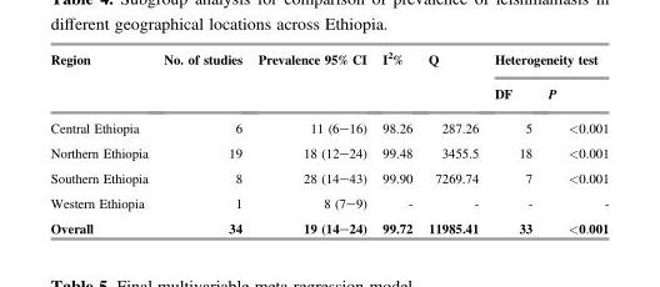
<table><thead><tr><td rowspan="2">Region</td><td rowspan="2">No. of studies</td><td rowspan="2">Prevalence 95% CI</td><td rowspan="2">I<sup>2</sup>%</td><td rowspan="2">Q</td><td colspan="2">Heterogeneity test</td></tr><tr><td>DF</td><td>P</td></tr></thead><tbody><tr><td>Central Ethiopia</td><td>6</td><td>11 (6–16)</td><td>98.26</td><td>287.26</td><td>5</td><td>&lt;0.001</td></tr><tr><td>Northern Ethiopia</td><td>19</td><td>18 (12–24)</td><td>99.48</td><td>3455.5</td><td>18</td><td>&lt;0.001</td></tr><tr><td>Southern Ethiopia</td><td>8</td><td>28 (14–43)</td><td>99.90</td><td>7269.74</td><td>7</td><td>&lt;0.001</td></tr><tr><td>Western Ethiopia</td><td>1</td><td>8 (7–9)</td><td>-</td><td>-</td><td>-</td><td>-</td></tr><tr><td>Overall</td><td>34</td><td>19 (14–24)</td><td>99.72</td><td>11985.41</td><td>33</td><td>&lt;0.001</td></tr></tbody></table>